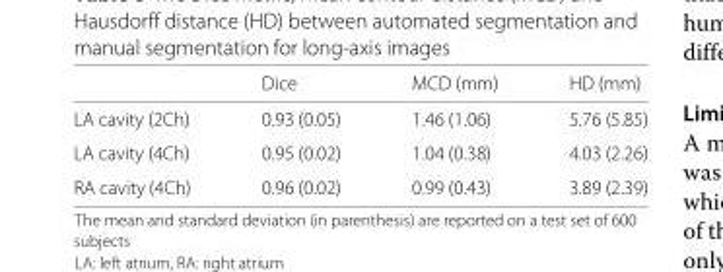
<table><thead><tr><td></td><td>Dice</td><td>MCD (mm)</td><td>HD (mm)</td></tr></thead><tbody><tr><td>LA cavity (2Ch)</td><td>0.93 (0.05)</td><td>1.46 (1.06)</td><td>5.76 (5.85)</td></tr><tr><td>LA cavity (4Ch)</td><td>0.95 (0.02)</td><td>1.04 (0.38)</td><td>4.03 (2.26)</td></tr><tr><td>RA cavity (4Ch)</td><td>0.96 (0.02)</td><td>0.99 (0.43)</td><td>3.89 (2.39)</td></tr></tbody></table>